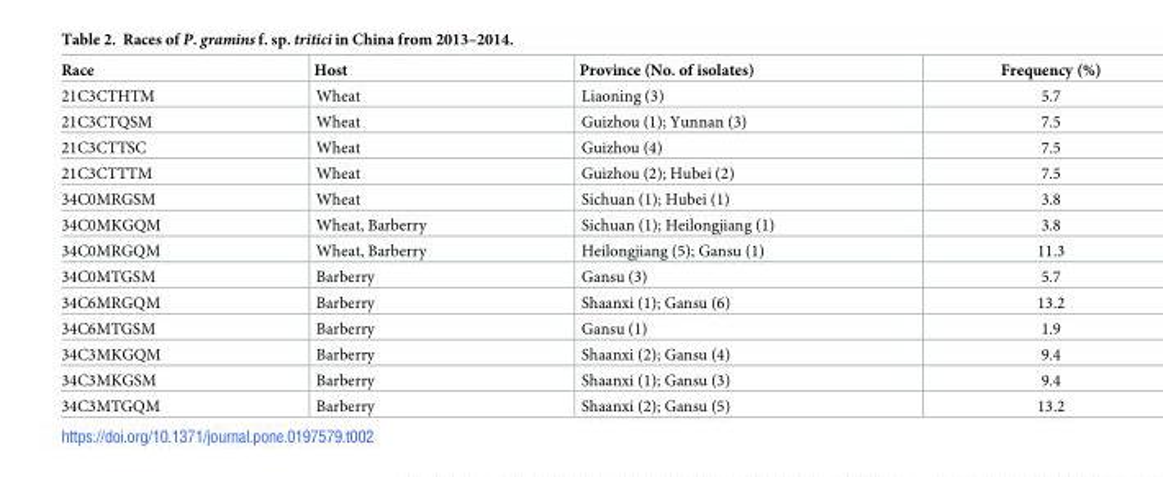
<table><thead><tr><td>Race</td><td>Host</td><td>Province (No. of isolates)</td><td>Frequency (%)</td></tr></thead><tbody><tr><td>21C3CTHTM</td><td>Wheat</td><td>Liaoning (3)</td><td>5.7</td></tr><tr><td>21C3CTQSM</td><td>Wheat</td><td>Guizhou (1); Yunnan (3)</td><td>7.5</td></tr><tr><td>21C3CTTSC</td><td>Wheat</td><td>Guizhou (4)</td><td>7.5</td></tr><tr><td>21C3CTTTM</td><td>Wheat</td><td>Guizhou (2); Hubei (2)</td><td>7.5</td></tr><tr><td>34C0MRGSM</td><td>Wheat</td><td>Sichuan (1); Hubei (1)</td><td>3.8</td></tr><tr><td>34C0MKGQM</td><td>Wheat, Barberry</td><td>Sichuan (1); Heilongjiang (1)</td><td>3.8</td></tr><tr><td>34C0MRGQM</td><td>Wheat, Barberry</td><td>Heilongjiang (5); Gansu (1)</td><td>11.3</td></tr><tr><td>34C0MTGSM</td><td>Barberry</td><td>Gansu (3)</td><td>5.7</td></tr><tr><td>34C6MRGQM</td><td>Barberry</td><td>Shaanxi (1); Gansu (6)</td><td>13.2</td></tr><tr><td>34C6MTGSM</td><td>Barberry</td><td>Gansu (1)</td><td>1.9</td></tr><tr><td>34C3MKGQM</td><td>Barberry</td><td>Shaanxi (2); Gansu (4)</td><td>9.4</td></tr><tr><td>34C3MKGSM</td><td>Barberry</td><td>Shaanxi (1); Gansu (3)</td><td>9.4</td></tr><tr><td>34C3MTGQM</td><td>Barberry</td><td>Shaanxi (2); Gansu (5)</td><td>13.2</td></tr></tbody></table>